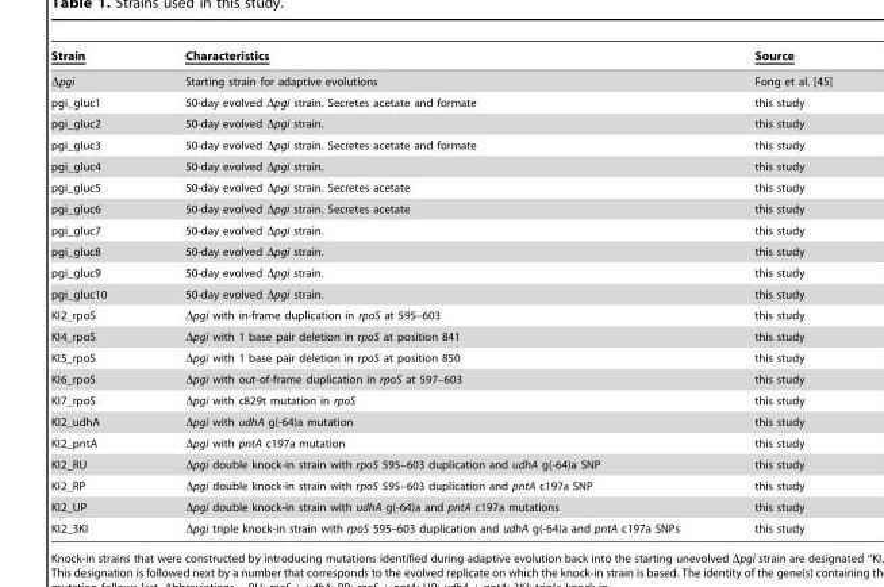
<table><thead><tr><td>Strain</td><td>Characteristics</td><td>Source</td></tr></thead><tbody><tr><td>Δpgi</td><td>Starting strain for adaptive evolutions</td><td>Fong et al. [45]</td></tr><tr><td>pgi_gluc1</td><td>50-day evolved Δpgi strain. Secretes acetate and formate</td><td>this study</td></tr><tr><td>pgi_gluc2</td><td>50-day evolved Δpgi strain.</td><td>this study</td></tr><tr><td>pgi_gluc3</td><td>50-day evolved Δpgi strain. Secretes acetate and formate</td><td>this study</td></tr><tr><td>pgi_gluc4</td><td>50-day evolved Δpgi strain.</td><td>this study</td></tr><tr><td>pgi_gluc5</td><td>50-day evolved Δpgi strain. Secretes acetate</td><td>this study</td></tr><tr><td>pgi_gluc6</td><td>50-day evolved Δpgi strain. Secretes acetate</td><td>this study</td></tr><tr><td>pgi_gluc7</td><td>50-day evolved Δpgi strain.</td><td>this study</td></tr><tr><td>pgi_gluc8</td><td>50-day evolved Δpgi strain.</td><td>this study</td></tr><tr><td>pgi_gluc9</td><td>50-day evolved Δpgi strain.</td><td>this study</td></tr><tr><td>pgi_gluc10</td><td>50-day evolved Δpgi strain.</td><td>this study</td></tr><tr><td>KI2_rpoS</td><td>Δpgi with in-frame duplication in rpoS at 595–603</td><td>this study</td></tr><tr><td>KI4_rpoS</td><td>Δpgi with 1 base pair deletion in rpoS at position 841</td><td>this study</td></tr><tr><td>KI5_rpoS</td><td>Δpgi with 1 base pair deletion in rpoS at position 850</td><td>this study</td></tr><tr><td>KI6_rpoS</td><td>Δpgi with out-of-frame duplication in rpoS at 597–603</td><td>this study</td></tr><tr><td>KI7_rpoS</td><td>Δpgi with c829t mutation in rpoS</td><td>this study</td></tr><tr><td>KI2_udhA</td><td>Δpgi with udhA g(-64)a mutation</td><td>this study</td></tr><tr><td>KI2_pntA</td><td>Δpgi with pntA c197a mutation</td><td>this study</td></tr><tr><td>KI2_RU</td><td>Δpgi double knock-in strain with rpoS 595–603 duplication and udhA g(-64)a SNP</td><td>this study</td></tr><tr><td>KI2_RP</td><td>Δpgi double knock-in strain with rpoS 595–603 duplication and pntA c197a SNP</td><td>this study</td></tr><tr><td>KI2_UP</td><td>Δpgi double knock-in strain with udhA g(-64)a and pntA c197a mutations</td><td>this study</td></tr><tr><td>KI2_3KI</td><td>Δpgi triple knock-in strain with rpoS 595–603 duplication and udhA g(-64)a and pntA c197a SNPs</td><td>this study</td></tr></tbody></table>